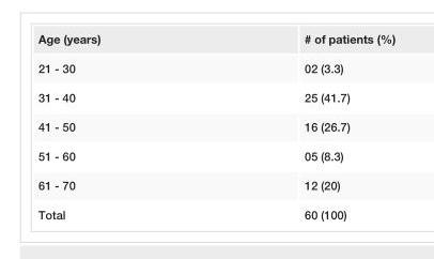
<table><tbody><tr><td>Age (years)</td><td># of patients (%)</td></tr><tr><td>21 - 30</td><td>02 (3.3)</td></tr><tr><td>31 - 40</td><td>25 (41.7)</td></tr><tr><td>41 - 50</td><td>16 (26.7)</td></tr><tr><td>51 - 60</td><td>05 (8.3)</td></tr><tr><td>61 - 70</td><td>12 (20)</td></tr><tr><td>Total</td><td>60 (100)</td></tr></tbody></table>